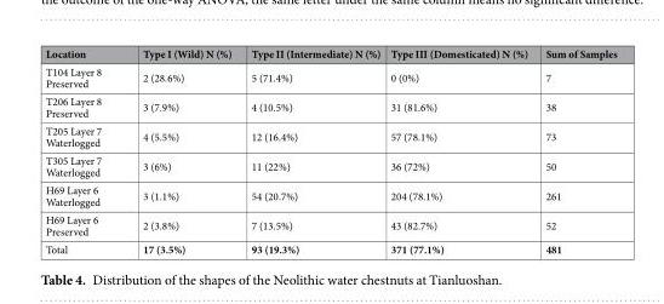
<table><thead><tr><td>Location</td><td>Type I (Wild) N (%)</td><td>Type II (Intermediate) N (%)</td><td>Type III (Domesticated) N (%)</td><td>Sum of Samples</td></tr></thead><tbody><tr><td>T104 Layer 8 Preserved</td><td>2 (28.6%)</td><td>5 (71.4%)</td><td>0 (0%)</td><td>7</td></tr><tr><td>T206 Layer 8 Preserved</td><td>3 (7.9%)</td><td>4 (10.5%)</td><td>31 (81.6%)</td><td>38</td></tr><tr><td>T205 Layer 7 Waterlogged</td><td>4 (5.5%)</td><td>12 (16.4%)</td><td>57 (78.1%)</td><td>73</td></tr><tr><td>T305 Layer 7 Waterlogged</td><td>3 (6%)</td><td>11 (22%)</td><td>36 (72%)</td><td>50</td></tr><tr><td>H69 Layer 6 Waterlogged</td><td>3 (1.1%)</td><td>54 (20.7%)</td><td>204 (78.1%)</td><td>261</td></tr><tr><td>H69 Layer 6 Preserved</td><td>2 (3.8%)</td><td>7 (13.5%)</td><td>43 (82.7%)</td><td>52</td></tr><tr><td>Total</td><td>17 (3.5%)</td><td>93 (19.3%)</td><td>371 (77.1%)</td><td>481</td></tr></tbody></table>